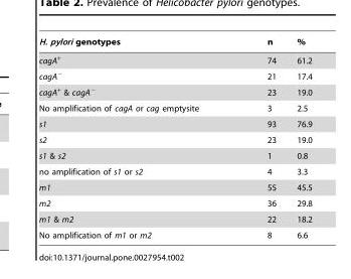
<table><thead><tr><td>H. pylori genotypes</td><td>n</td><td>%</td></tr></thead><tbody><tr><td>cagA<sup>+</sup></td><td>74</td><td>61.2</td></tr><tr><td>cagA<sup>−</sup></td><td>21</td><td>17.4</td></tr><tr><td>cagA<sup>+</sup> &amp; cagA<sup>−</sup></td><td>23</td><td>19.0</td></tr><tr><td>No amplification of cagA or cag emptysite</td><td>3</td><td>2.5</td></tr><tr><td>s1</td><td>93</td><td>76.9</td></tr><tr><td>s2</td><td>23</td><td>19.0</td></tr><tr><td>s1 &amp; s2</td><td>1</td><td>0.8</td></tr><tr><td>no amplification of s1 or s2</td><td>4</td><td>3.3</td></tr><tr><td>m1</td><td>55</td><td>45.5</td></tr><tr><td>m2</td><td>36</td><td>29.8</td></tr><tr><td>m1 &amp; m2</td><td>22</td><td>18.2</td></tr><tr><td>No amplification of m1 or m2</td><td>8</td><td>6.6</td></tr></tbody></table>